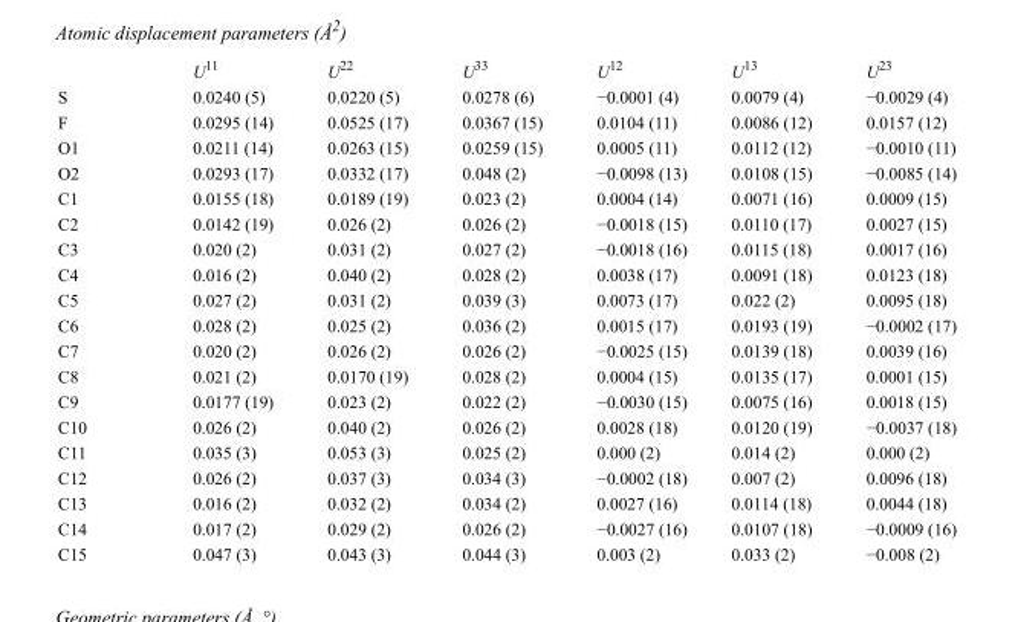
<table><thead><tr><td></td><td>U<sup>11</sup></td><td>U<sup>22</sup></td><td>U<sup>33</sup></td><td>U<sup>12</sup></td><td>U<sup>13</sup></td><td>U<sup>23</sup></td></tr></thead><tbody><tr><td>S</td><td>0.0240 (5)</td><td>0.0220 (5)</td><td>0.0278 (6)</td><td>−0.0001 (4)</td><td>0.0079 (4)</td><td>−0.0029 (4)</td></tr><tr><td>F</td><td>0.0295 (14)</td><td>0.0525 (17)</td><td>0.0367 (15)</td><td>0.0104 (11)</td><td>0.0086 (12)</td><td>0.0157 (12)</td></tr><tr><td>O1</td><td>0.0211 (14)</td><td>0.0263 (15)</td><td>0.0259 (15)</td><td>0.0005 (11)</td><td>0.0112 (12)</td><td>−0.0010 (11)</td></tr><tr><td>O2</td><td>0.0293 (17)</td><td>0.0332 (17)</td><td>0.048 (2)</td><td>−0.0098 (13)</td><td>0.0108 (15)</td><td>−0.0085 (14)</td></tr><tr><td>C1</td><td>0.0155 (18)</td><td>0.0189 (19)</td><td>0.023 (2)</td><td>0.0004 (14)</td><td>0.0071 (16)</td><td>0.0009 (15)</td></tr><tr><td>C2</td><td>0.0142 (19)</td><td>0.026 (2)</td><td>0.026 (2)</td><td>−0.0018 (15)</td><td>0.0110 (17)</td><td>0.0027 (15)</td></tr><tr><td>C3</td><td>0.020 (2)</td><td>0.031 (2)</td><td>0.027 (2)</td><td>−0.0018 (16)</td><td>0.0115 (18)</td><td>0.0017 (16)</td></tr><tr><td>C4</td><td>0.016 (2)</td><td>0.040 (2)</td><td>0.028 (2)</td><td>0.0038 (17)</td><td>0.0091 (18)</td><td>0.0123 (18)</td></tr><tr><td>C5</td><td>0.027 (2)</td><td>0.031 (2)</td><td>0.039 (3)</td><td>0.0073 (17)</td><td>0.022 (2)</td><td>0.0095 (18)</td></tr><tr><td>C6</td><td>0.028 (2)</td><td>0.025 (2)</td><td>0.036 (2)</td><td>0.0015 (17)</td><td>0.0193 (19)</td><td>−0.0002 (17)</td></tr><tr><td>C7</td><td>0.020 (2)</td><td>0.026 (2)</td><td>0.026 (2)</td><td>−0.0025 (15)</td><td>0.0139 (18)</td><td>0.0039 (16)</td></tr><tr><td>C8</td><td>0.021 (2)</td><td>0.0170 (19)</td><td>0.028 (2)</td><td>0.0004 (15)</td><td>0.0135 (17)</td><td>0.0001 (15)</td></tr><tr><td>C9</td><td>0.0177 (19)</td><td>0.023 (2)</td><td>0.022 (2)</td><td>−0.0030 (15)</td><td>0.0075 (16)</td><td>0.0018 (15)</td></tr><tr><td>C10</td><td>0.026 (2)</td><td>0.040 (2)</td><td>0.026 (2)</td><td>0.0028 (18)</td><td>0.0120 (19)</td><td>−0.0037 (18)</td></tr><tr><td>C11</td><td>0.035 (3)</td><td>0.053 (3)</td><td>0.025 (2)</td><td>0.000 (2)</td><td>0.014 (2)</td><td>0.000 (2)</td></tr><tr><td>C12</td><td>0.026 (2)</td><td>0.037 (3)</td><td>0.034 (3)</td><td>−0.0002 (18)</td><td>0.007 (2)</td><td>0.0096 (18)</td></tr><tr><td>C13</td><td>0.016 (2)</td><td>0.032 (2)</td><td>0.034 (2)</td><td>0.0027 (16)</td><td>0.0114 (18)</td><td>0.0044 (18)</td></tr><tr><td>C14</td><td>0.017 (2)</td><td>0.029 (2)</td><td>0.026 (2)</td><td>−0.0027 (16)</td><td>0.0107 (18)</td><td>−0.0009 (16)</td></tr><tr><td>C15</td><td>0.047 (3)</td><td>0.043 (3)</td><td>0.044 (3)</td><td>0.003 (2)</td><td>0.033 (2)</td><td>−0.008 (2)</td></tr></tbody></table>